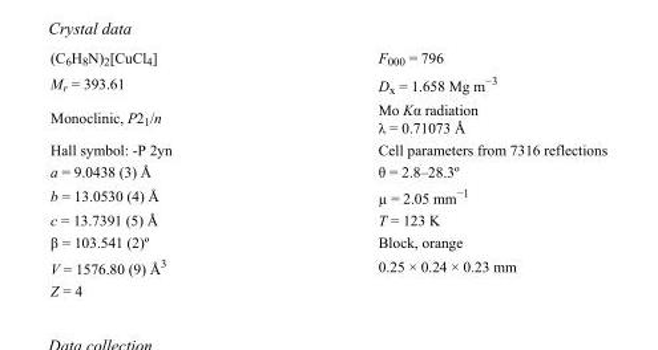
<table><tbody><tr><td>(C<sub>6</sub>H<sub>8</sub>N)<sub>2</sub>[CuCl<sub>4</sub>]</td><td>F000 = 796</td></tr><tr><td>M<sub>r</sub> = 393.61</td><td>D<sub>x</sub> = 1.658 Mg m<sup>−3</sup></td></tr><tr><td>Monoclinic, P2<sub>1</sub>/n</td><td>Mo Kα radiation λ = 0.71073 Å</td></tr><tr><td>Hall symbol: -P 2yn</td><td>Cell parameters from 7316 reflections</td></tr><tr><td>a = 9.0438 (3) Å</td><td>θ = 2.8–28.3º</td></tr><tr><td>b = 13.0530 (4) Å</td><td>µ = 2.05 mm<sup>−1</sup></td></tr><tr><td>c = 13.7391 (5) Å</td><td>T = 123 K</td></tr><tr><td>β = 103.541 (2)º</td><td>Block, orange</td></tr><tr><td>V = 1576.80 (9) Å<sup>3</sup></td><td>0.25 × 0.24 × 0.23 mm</td></tr><tr><td>Z = 4</td><td></td></tr></tbody></table>